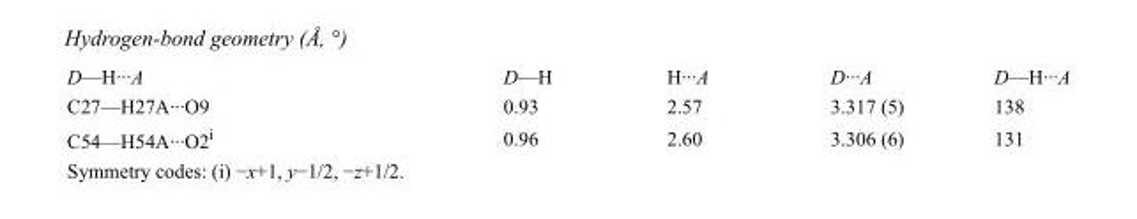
<table><tbody><tr><td>D—H···A</td><td>D—H</td><td>H···A</td><td>D···A</td><td>D—H···A</td></tr><tr><td>C27—H27A···O9</td><td>0.93</td><td>2.57</td><td>3.317 (5)</td><td>138</td></tr><tr><td>C54—H54A···O2<sup>i</sup></td><td>0.96</td><td>2.60</td><td>3.306 (6)</td><td>131</td></tr></tbody></table>